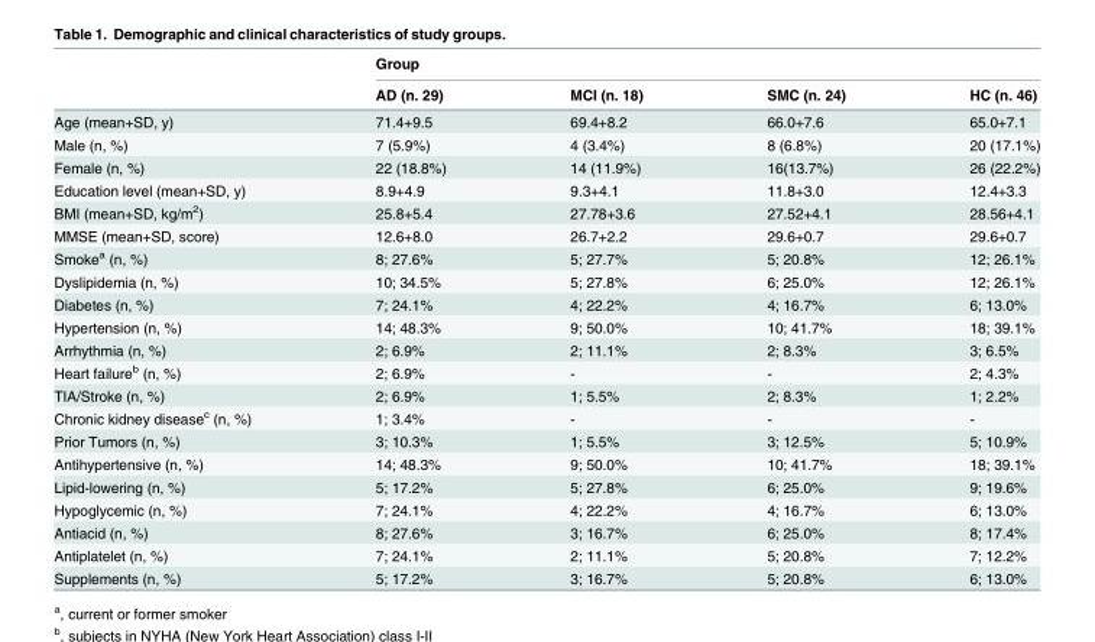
<table><thead><tr><td rowspan="2"></td><td colspan="4">Group</td></tr><tr><td>AD (n. 29)</td><td>MCI (n. 18)</td><td>SMC (n. 24)</td><td>HC (n. 46)</td></tr></thead><tbody><tr><td>Age (mean+SD, y)</td><td>71.4+9.5</td><td>69.4+8.2</td><td>66.0+7.6</td><td>65.0+7.1</td></tr><tr><td>Male (n, %)</td><td>7 (5.9%)</td><td>4 (3.4%)</td><td>8 (6.8%)</td><td>20 (17.1%)</td></tr><tr><td>Female (n, %)</td><td>22 (18.8%)</td><td>14 (11.9%)</td><td>16(13.7%)</td><td>26 (22.2%)</td></tr><tr><td>Education level (mean+SD, y)</td><td>8.9+4.9</td><td>9.3+4.1</td><td>11.8+3.0</td><td>12.4+3.3</td></tr><tr><td>BMI (mean+SD, kg/m<sup>2</sup>)</td><td>25.8+5.4</td><td>27.78+3.6</td><td>27.52+4.1</td><td>28.56+4.1</td></tr><tr><td>MMSE (mean+SD, score)</td><td>12.6+8.0</td><td>26.7+2.2</td><td>29.6+0.7</td><td>29.6+0.7</td></tr><tr><td>Smoke<sup>a</sup> (n, %)</td><td>8; 27.6%</td><td>5; 27.7%</td><td>5; 20.8%</td><td>12; 26.1%</td></tr><tr><td>Dyslipidemia (n, %)</td><td>10; 34.5%</td><td>5; 27.8%</td><td>6; 25.0%</td><td>12; 26.1%</td></tr><tr><td>Diabetes (n, %)</td><td>7; 24.1%</td><td>4; 22.2%</td><td>4; 16.7%</td><td>6; 13.0%</td></tr><tr><td>Hypertension (n, %)</td><td>14; 48.3%</td><td>9; 50.0%</td><td>10; 41.7%</td><td>18; 39.1%</td></tr><tr><td>Arrhythmia (n, %)</td><td>2; 6.9%</td><td>2; 11.1%</td><td>2; 8.3%</td><td>3; 6.5%</td></tr><tr><td>Heart failure<sup>b</sup> (n, %)</td><td>2; 6.9%</td><td>-</td><td>-</td><td>2; 4.3%</td></tr><tr><td>TIA/Stroke (n, %)</td><td>2; 6.9%</td><td>1; 5.5%</td><td>2; 8.3%</td><td>1; 2.2%</td></tr><tr><td>Chronic kidney disease<sup>c</sup> (n, %)</td><td>1; 3.4%</td><td>-</td><td>-</td><td>-</td></tr><tr><td>Prior Tumors (n, %)</td><td>3; 10.3%</td><td>1; 5.5%</td><td>3; 12.5%</td><td>5; 10.9%</td></tr><tr><td>Antihypertensive (n, %)</td><td>14; 48.3%</td><td>9; 50.0%</td><td>10; 41.7%</td><td>18; 39.1%</td></tr><tr><td>Lipid-lowering (n, %)</td><td>5; 17.2%</td><td>5; 27.8%</td><td>6; 25.0%</td><td>9; 19.6%</td></tr><tr><td>Hypoglycemic (n, %)</td><td>7; 24.1%</td><td>4; 22.2%</td><td>4; 16.7%</td><td>6; 13.0%</td></tr><tr><td>Antiacid (n, %)</td><td>8; 27.6%</td><td>3; 16.7%</td><td>6; 25.0%</td><td>8; 17.4%</td></tr><tr><td>Antiplatelet (n, %)</td><td>7; 24.1%</td><td>2; 11.1%</td><td>5; 20.8%</td><td>7; 12.2%</td></tr><tr><td>Supplements (n, %)</td><td>5; 17.2%</td><td>3; 16.7%</td><td>5; 20.8%</td><td>6; 13.0%</td></tr></tbody></table>